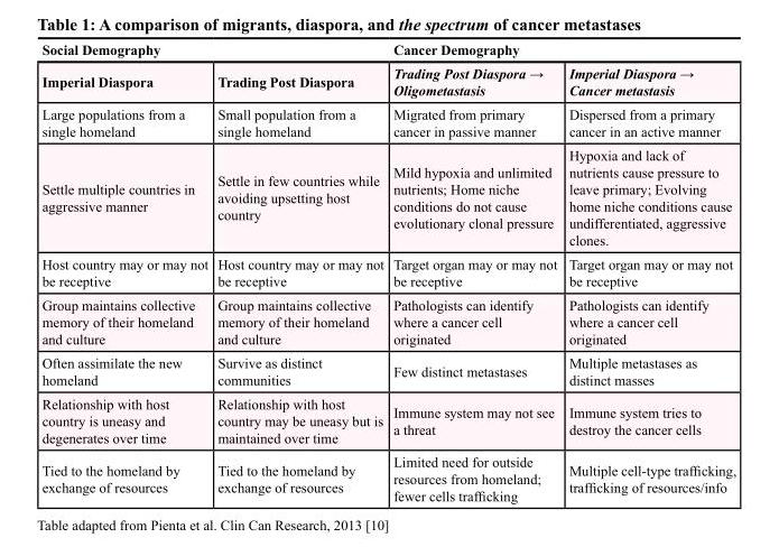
<table><thead><tr><td colspan="2">Social Demography</td><td colspan="2">Cancer Demography</td></tr><tr><td>Imperial Diaspora</td><td>Trading Post Diaspora</td><td>Trading Post Diaspora → Oligometastasis</td><td>Imperial Diaspora → Cancer metastasis</td></tr></thead><tbody><tr><td>Large populations from a single homeland</td><td>Small population from a single homeland</td><td>Migrated from primary cancer in passive manner</td><td>Dispersed from a primary cancer in an active manner</td></tr><tr><td>Settle multiple countries in aggressive manner</td><td>Settle in few countries while avoiding upsetting host country</td><td>Mild hypoxia and unlimited nutrients; Home niche conditions do not cause evolutionary clonal pressure</td><td>Hypoxia and lack of nutrients cause pressure to leave primary; Evolving home niche conditions cause undifferentiated, aggressive clones.</td></tr><tr><td>Host country may or may not be receptive</td><td>Host country may or may not be receptive</td><td>Target organ may or may not be receptive</td><td>Target organ may or may not be receptive</td></tr><tr><td>Group maintains collective memory of their homeland and culture</td><td>Group maintains collective memory of their homeland and culture</td><td>Pathologists can identify where a cancer cell originated</td><td>Pathologists can identify where a cancer cell originated</td></tr><tr><td>Often assimilate the new homeland</td><td>Survive as distinct communities</td><td>Few distinct metastases</td><td>Multiple metastases as distinct masses</td></tr><tr><td>Relationship with host country is uneasy and degenerates over time</td><td>Relationship with host country may be uneasy but is maintained over time</td><td>Immune system may not see a threat</td><td>Immune system tries to destroy the cancer cells</td></tr><tr><td>Tied to the homeland by exchange of resources</td><td>Tied to the homeland by exchange of resources</td><td>Limited need for outside resources from homeland; fewer cells trafficking</td><td>Multiple cell-type trafficking, trafficking of resources/info</td></tr></tbody></table>